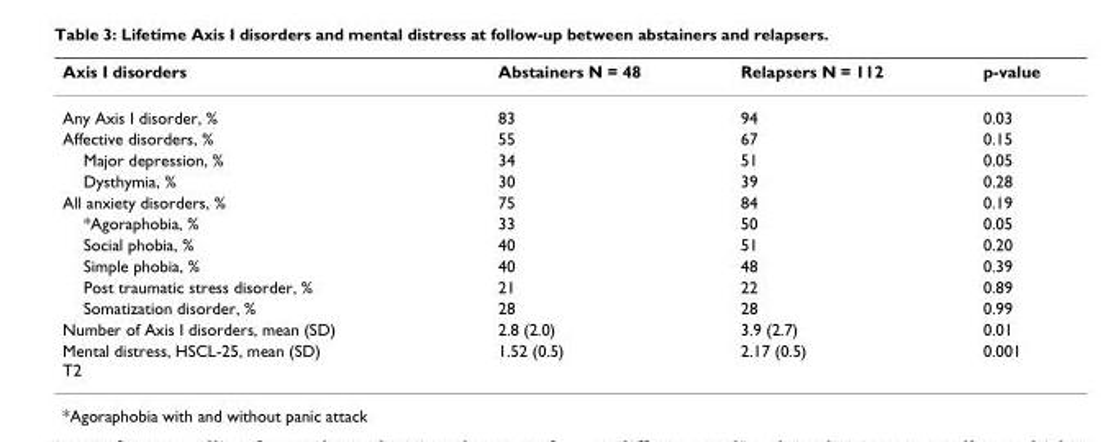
<table><thead><tr><td>Axis I disorders</td><td>Abstainers N = 48</td><td>Relapsers N = 112</td><td>p-value</td></tr></thead><tbody><tr><td>Any Axis I disorder, %</td><td>83</td><td>94</td><td>0.03</td></tr><tr><td>Affective disorders, %</td><td>55</td><td>67</td><td>0.15</td></tr><tr><td>Major depression, %</td><td>34</td><td>51</td><td>0.05</td></tr><tr><td>Dysthymia, %</td><td>30</td><td>39</td><td>0.28</td></tr><tr><td>All anxiety disorders, %</td><td>75</td><td>84</td><td>0.19</td></tr><tr><td>*Agoraphobia, %</td><td>33</td><td>50</td><td>0.05</td></tr><tr><td>Social phobia, %</td><td>40</td><td>51</td><td>0.20</td></tr><tr><td>Simple phobia, %</td><td>40</td><td>48</td><td>0.39</td></tr><tr><td>Post traumatic stress disorder, %</td><td>21</td><td>22</td><td>0.89</td></tr><tr><td>Somatization disorder, %</td><td>28</td><td>28</td><td>0.99</td></tr><tr><td>Number of Axis I disorders, mean (SD)</td><td>2.8 (2.0)</td><td>3.9 (2.7)</td><td>0.01</td></tr><tr><td>Mental distress, HSCL-25, mean (SD) T2</td><td>1.52 (0.5)</td><td>2.17 (0.5)</td><td>0.001</td></tr></tbody></table>